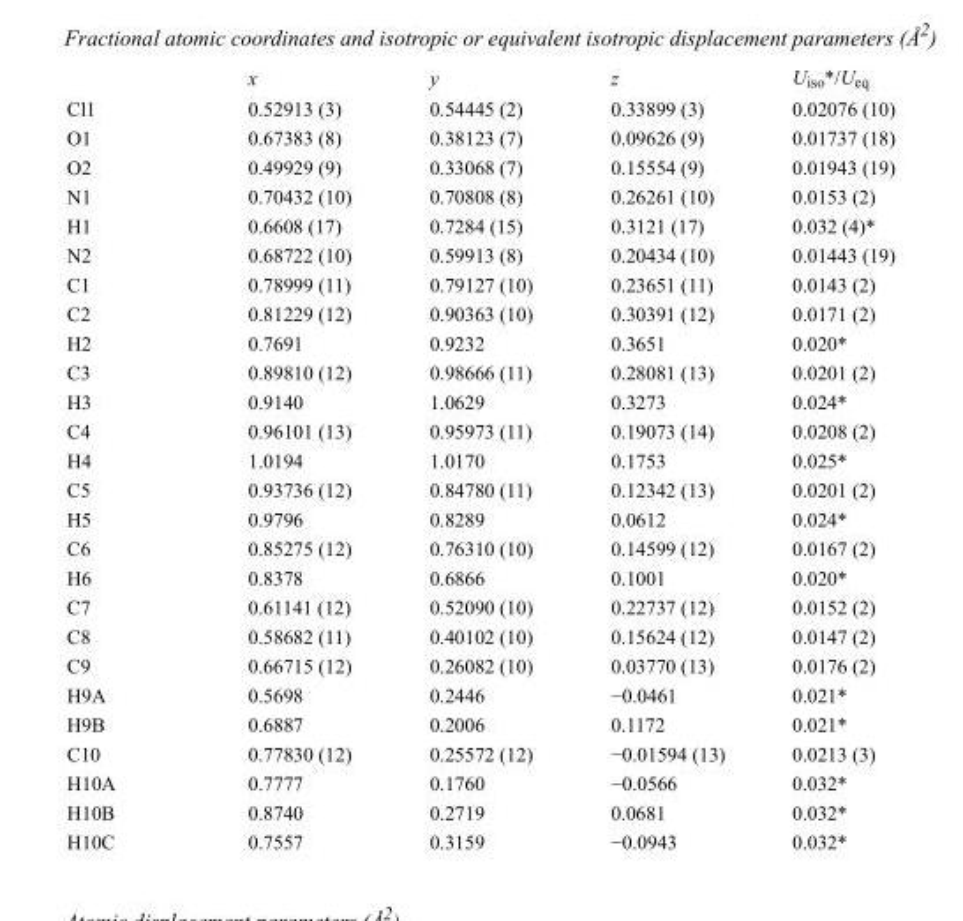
<table><thead><tr><td></td><td>x</td><td>y</td><td>z</td><td>U<sub>iso</sub>*/U<sub>eq</sub></td></tr></thead><tbody><tr><td>Cl1</td><td>0.52913 (3)</td><td>0.54445 (2)</td><td>0.33899 (3)</td><td>0.02076 (10)</td></tr><tr><td>O1</td><td>0.67383 (8)</td><td>0.38123 (7)</td><td>0.09626 (9)</td><td>0.01737 (18)</td></tr><tr><td>O2</td><td>0.49929 (9)</td><td>0.33068 (7)</td><td>0.15554 (9)</td><td>0.01943 (19)</td></tr><tr><td>N1</td><td>0.70432 (10)</td><td>0.70808 (8)</td><td>0.26261 (10)</td><td>0.0153 (2)</td></tr><tr><td>H1</td><td>0.6608 (17)</td><td>0.7284 (15)</td><td>0.3121 (17)</td><td>0.032 (4)*</td></tr><tr><td>N2</td><td>0.68722 (10)</td><td>0.59913 (8)</td><td>0.20434 (10)</td><td>0.01443 (19)</td></tr><tr><td>C1</td><td>0.78999 (11)</td><td>0.79127 (10)</td><td>0.23651 (11)</td><td>0.0143 (2)</td></tr><tr><td>C2</td><td>0.81229 (12)</td><td>0.90363 (10)</td><td>0.30391 (12)</td><td>0.0171 (2)</td></tr><tr><td>H2</td><td>0.7691</td><td>0.9232</td><td>0.3651</td><td>0.020*</td></tr><tr><td>C3</td><td>0.89810 (12)</td><td>0.98666 (11)</td><td>0.28081 (13)</td><td>0.0201 (2)</td></tr><tr><td>H3</td><td>0.9140</td><td>1.0629</td><td>0.3273</td><td>0.024*</td></tr><tr><td>C4</td><td>0.96101 (13)</td><td>0.95973 (11)</td><td>0.19073 (14)</td><td>0.0208 (2)</td></tr><tr><td>H4</td><td>1.0194</td><td>1.0170</td><td>0.1753</td><td>0.025*</td></tr><tr><td>C5</td><td>0.93736 (12)</td><td>0.84780 (11)</td><td>0.12342 (13)</td><td>0.0201 (2)</td></tr><tr><td>H5</td><td>0.9796</td><td>0.8289</td><td>0.0612</td><td>0.024*</td></tr><tr><td>C6</td><td>0.85275 (12)</td><td>0.76310 (10)</td><td>0.14599 (12)</td><td>0.0167 (2)</td></tr><tr><td>H6</td><td>0.8378</td><td>0.6866</td><td>0.1001</td><td>0.020*</td></tr><tr><td>C7</td><td>0.61141 (12)</td><td>0.52090 (10)</td><td>0.22737 (12)</td><td>0.0152 (2)</td></tr><tr><td>C8</td><td>0.58682 (11)</td><td>0.40102 (10)</td><td>0.15624 (12)</td><td>0.0147 (2)</td></tr><tr><td>C9</td><td>0.66715 (12)</td><td>0.26082 (10)</td><td>0.03770 (13)</td><td>0.0176 (2)</td></tr><tr><td>H9A</td><td>0.5698</td><td>0.2446</td><td>−0.0461</td><td>0.021*</td></tr><tr><td>H9B</td><td>0.6887</td><td>0.2006</td><td>0.1172</td><td>0.021*</td></tr><tr><td>C10</td><td>0.77830 (12)</td><td>0.25572 (12)</td><td>−0.01594 (13)</td><td>0.0213 (3)</td></tr><tr><td>H10A</td><td>0.7777</td><td>0.1760</td><td>−0.0566</td><td>0.032*</td></tr><tr><td>H10B</td><td>0.8740</td><td>0.2719</td><td>0.0681</td><td>0.032*</td></tr><tr><td>H10C</td><td>0.7557</td><td>0.3159</td><td>−0.0943</td><td>0.032*</td></tr></tbody></table>